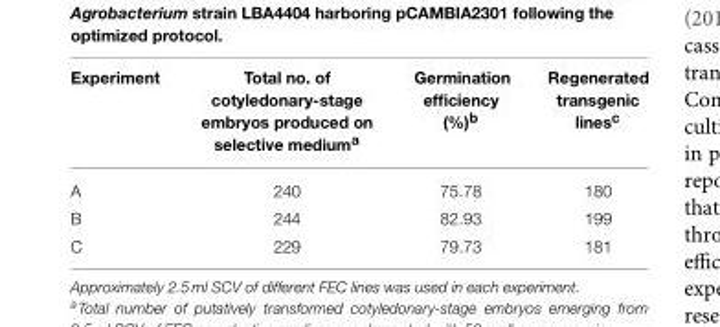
<table><thead><tr><td>Experiment</td><td>Total no. of cotyledonary-stage embryos produced on selective medium<sup>a</sup></td><td>Germination efficiency (%)<sup>b</sup></td><td>Regenerated transgenic lines<sup>c</sup></td></tr></thead><tbody><tr><td>A</td><td>240</td><td>75.78</td><td>180</td></tr><tr><td>B</td><td>244</td><td>82.93</td><td>199</td></tr><tr><td>C</td><td>229</td><td>79.73</td><td>181</td></tr></tbody></table>